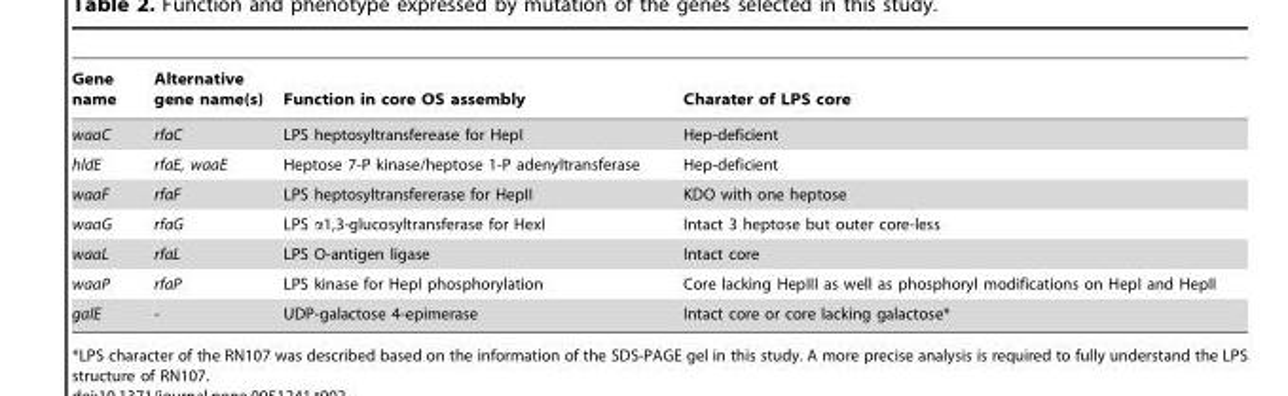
<table><thead><tr><td>Gene name</td><td>Alternative gene name(s)</td><td>Function in core OS assembly</td><td>Charater of LPS core</td></tr></thead><tbody><tr><td>waaC</td><td>rfaC</td><td>LPS heptosyltransferease for HepI</td><td>Hep-deficient</td></tr><tr><td>hldE</td><td>rfaE, waaE</td><td>Heptose 7-P kinase/heptose 1-P adenyltransferase</td><td>Hep-deficient</td></tr><tr><td>waaF</td><td>rfaF</td><td>LPS heptosyltransfererase for HepII</td><td>KDO with one heptose</td></tr><tr><td>waaG</td><td>rfaG</td><td>LPS α1,3-glucosyltransferase for HexI</td><td>Intact 3 heptose but outer core-less</td></tr><tr><td>waaL</td><td>rfaL</td><td>LPS O-antigen ligase</td><td>Intact core</td></tr><tr><td>waaP</td><td>rfaP</td><td>LPS kinase for HepI phosphorylation</td><td>Core lacking HepIII as well as phosphoryl modifications on HepI and HepII</td></tr><tr><td>galE</td><td>-</td><td>UDP-galactose 4-epimerase</td><td>Intact core or core lacking galactose*</td></tr></tbody></table>